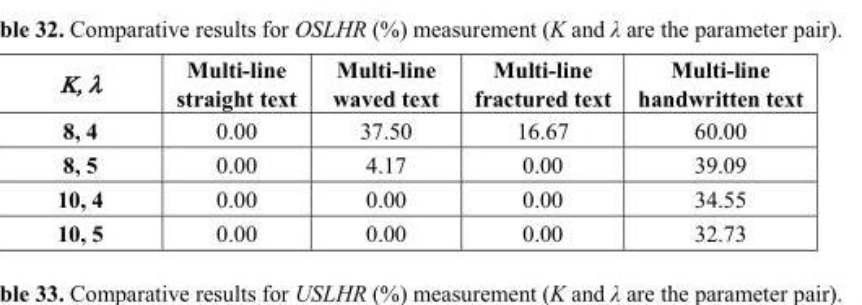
<table><thead><tr><td>Κ, λ</td><td>Multi-line straight text</td><td>Multi-line waved text</td><td>Multi-line fractured text</td><td>Multi-line handwritten text</td></tr></thead><tbody><tr><td>8, 4</td><td>0.00</td><td>37.50</td><td>16.67</td><td>60.00</td></tr><tr><td>8, 5</td><td>0.00</td><td>4.17</td><td>0.00</td><td>39.09</td></tr><tr><td>10, 4</td><td>0.00</td><td>0.00</td><td>0.00</td><td>34.55</td></tr><tr><td>10, 5</td><td>0.00</td><td>0.00</td><td>0.00</td><td>32.73</td></tr></tbody></table>